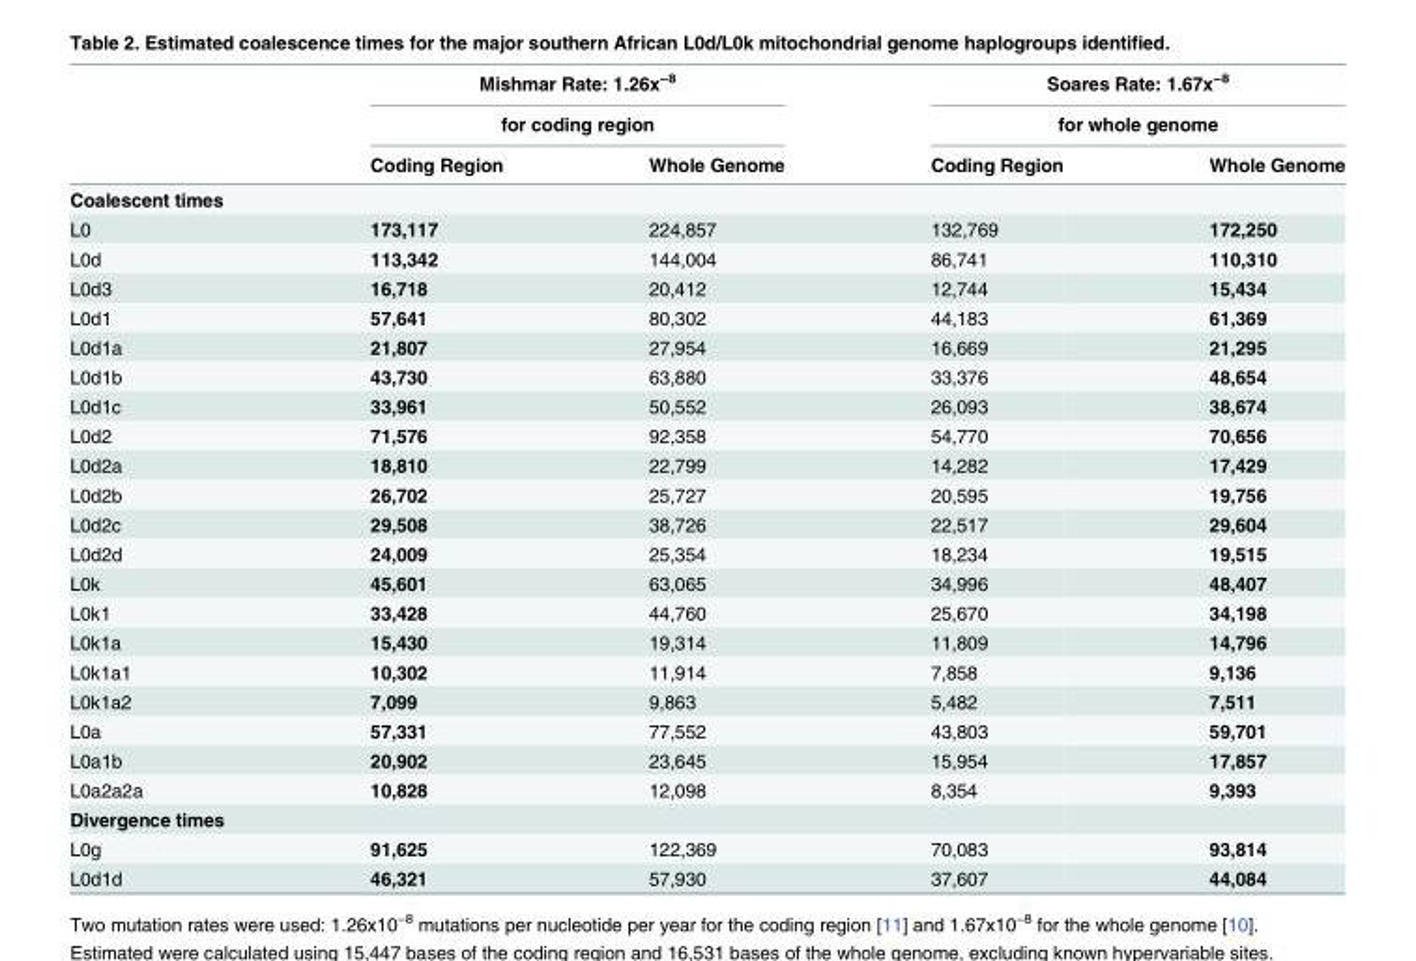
<table><thead><tr><td rowspan="3"></td><td rowspan="2" colspan="2">Mishmar Rate: 1.26x<sup>−8</sup> for coding region</td><td rowspan="2" colspan="2">Soares Rate: 1.67x<sup>−8</sup> for whole genome</td></tr><tr></tr><tr><td>Coding Region</td><td>Whole Genome</td><td>Coding Region</td><td>Whole Genome</td></tr></thead><tbody><tr><td colspan="5">Coalescent times</td></tr><tr><td>L0</td><td>173,117</td><td>224,857</td><td>132,769</td><td>172,250</td></tr><tr><td>L0d</td><td>113,342</td><td>144,004</td><td>86,741</td><td>110,310</td></tr><tr><td>L0d3</td><td>16,718</td><td>20,412</td><td>12,744</td><td>15,434</td></tr><tr><td>L0d1</td><td>57,641</td><td>80,302</td><td>44,183</td><td>61,369</td></tr><tr><td>L0d1a</td><td>21,807</td><td>27,954</td><td>16,669</td><td>21,295</td></tr><tr><td>L0d1b</td><td>43,730</td><td>63,880</td><td>33,376</td><td>48,654</td></tr><tr><td>L0d1c</td><td>33,961</td><td>50,552</td><td>26,093</td><td>38,674</td></tr><tr><td>L0d2</td><td>71,576</td><td>92,358</td><td>54,770</td><td>70,656</td></tr><tr><td>L0d2a</td><td>18,810</td><td>22,799</td><td>14,282</td><td>17,429</td></tr><tr><td>L0d2b</td><td>26,702</td><td>25,727</td><td>20,595</td><td>19,756</td></tr><tr><td>L0d2c</td><td>29,508</td><td>38,726</td><td>22,517</td><td>29,604</td></tr><tr><td>L0d2d</td><td>24,009</td><td>25,354</td><td>18,234</td><td>19,515</td></tr><tr><td>L0k</td><td>45,601</td><td>63,065</td><td>34,996</td><td>48,407</td></tr><tr><td>L0k1</td><td>33,428</td><td>44,760</td><td>25,670</td><td>34,198</td></tr><tr><td>L0k1a</td><td>15,430</td><td>19,314</td><td>11,809</td><td>14,796</td></tr><tr><td>L0k1a1</td><td>10,302</td><td>11,914</td><td>7,858</td><td>9,136</td></tr><tr><td>L0k1a2</td><td>7,099</td><td>9,863</td><td>5,482</td><td>7,511</td></tr><tr><td>L0a</td><td>57,331</td><td>77,552</td><td>43,803</td><td>59,701</td></tr><tr><td>L0a1b</td><td>20,902</td><td>23,645</td><td>15,954</td><td>17,857</td></tr><tr><td>L0a2a2a</td><td>10,828</td><td>12,098</td><td>8,354</td><td>9,393</td></tr><tr><td colspan="5">Divergence times</td></tr><tr><td>L0g</td><td>91,625</td><td>122,369</td><td>70,083</td><td>93,814</td></tr><tr><td>L0d1d</td><td>46,321</td><td>57,930</td><td>37,607</td><td>44,084</td></tr></tbody></table>